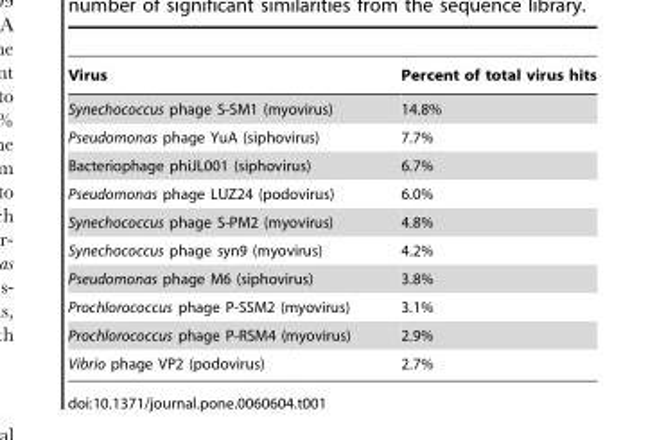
<table><thead><tr><td>Virus</td><td>Percent of total virus hits</td></tr></thead><tbody><tr><td>Synechococcus phage S-SM1 (myovirus)</td><td>14.8%</td></tr><tr><td>Pseudomonas phage YuA (siphovirus)</td><td>7.7%</td></tr><tr><td>Bacteriophage phiJL001 (siphovirus)</td><td>6.7%</td></tr><tr><td>Pseudomonas phage LUZ24 (podovirus)</td><td>6.0%</td></tr><tr><td>Synechococcus phage S-PM2 (myovirus)</td><td>4.8%</td></tr><tr><td>Synechococcus phage syn9 (myovirus)</td><td>4.2%</td></tr><tr><td>Pseudomonas phage M6 (siphovirus)</td><td>3.8%</td></tr><tr><td>Prochlorococcus phage P-SSM2 (myovirus)</td><td>3.1%</td></tr><tr><td>Prochlorococcus phage P-RSM4 (myovirus)</td><td>2.9%</td></tr><tr><td>Vibrio phage VP2 (podovirus)</td><td>2.7%</td></tr></tbody></table>